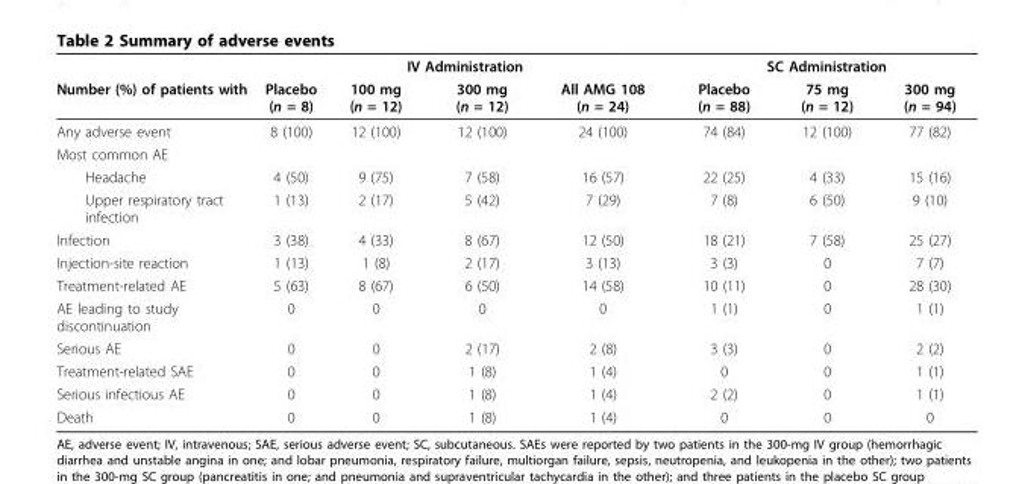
<table><thead><tr><td rowspan="2">Number (%) of patients with</td><td colspan="4">IV Administration</td><td colspan="3">SC Administration</td></tr><tr><td>Placebo (n = 8)</td><td>100 mg (n = 12)</td><td>300 mg (n = 12)</td><td>All AMG 108 (n = 24)</td><td>Placebo (n = 88)</td><td>75 mg (n = 12)</td><td>300 mg (n = 94)</td></tr></thead><tbody><tr><td>Any adverse event</td><td>8 (100)</td><td>12 (100)</td><td>12 (100)</td><td>24 (100)</td><td>74 (84)</td><td>12 (100)</td><td>77 (82)</td></tr><tr><td colspan="8">Most common AE</td></tr><tr><td>Headache</td><td>4 (50)</td><td>9 (75)</td><td>7 (58)</td><td>16 (57)</td><td>22 (25)</td><td>4 (33)</td><td>15 (16)</td></tr><tr><td>Upper respiratory tract infection</td><td>1 (13)</td><td>2 (17)</td><td>5 (42)</td><td>7 (29)</td><td>7 (8)</td><td>6 (50)</td><td>9 (10)</td></tr><tr><td>Infection</td><td>3 (38)</td><td>4 (33)</td><td>8 (67)</td><td>12 (50)</td><td>18 (21)</td><td>7 (58)</td><td>25 (27)</td></tr><tr><td>Injection-site reaction</td><td>1 (13)</td><td>1 (8)</td><td>2 (17)</td><td>3 (13)</td><td>3 (3)</td><td>0</td><td>7 (7)</td></tr><tr><td>Treatment-related AE</td><td>5 (63)</td><td>8 (67)</td><td>6 (50)</td><td>14 (58)</td><td>10 (11)</td><td>0</td><td>28 (30)</td></tr><tr><td>AE leading to study discontinuation</td><td>0</td><td>0</td><td>0</td><td>0</td><td>1 (1)</td><td>0</td><td>1 (1)</td></tr><tr><td>Serious AE</td><td>0</td><td>0</td><td>2 (17)</td><td>2 (8)</td><td>3 (3)</td><td>0</td><td>2 (2)</td></tr><tr><td>Treatment-related SAE</td><td>0</td><td>0</td><td>1 (8)</td><td>1 (4)</td><td>0</td><td>0</td><td>1 (1)</td></tr><tr><td>Serious infectious AE</td><td>0</td><td>0</td><td>1 (8)</td><td>1 (4)</td><td>2 (2)</td><td>0</td><td>1 (1)</td></tr><tr><td>Death</td><td>0</td><td>0</td><td>1 (8)</td><td>1 (4)</td><td>0</td><td>0</td><td>0</td></tr></tbody></table>